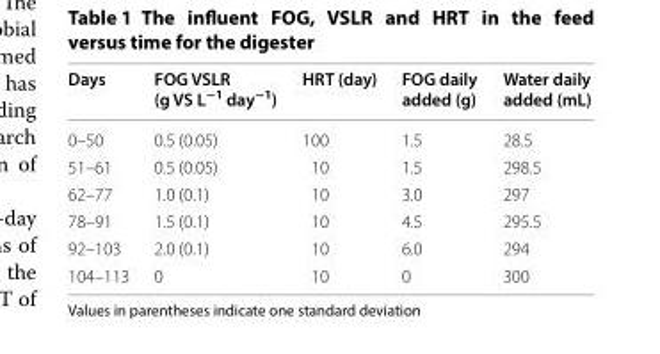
<table><thead><tr><td>Days</td><td>FOG VSLR (g VS L<sup>−1</sup> day<sup>−1</sup>)</td><td>HRT (day)</td><td>FOG daily added (g)</td><td>Water daily added (mL)</td></tr></thead><tbody><tr><td>0–50</td><td>0.5 (0.05)</td><td>100</td><td>1.5</td><td>28.5</td></tr><tr><td>51–61</td><td>0.5 (0.05)</td><td>10</td><td>1.5</td><td>298.5</td></tr><tr><td>62–77</td><td>1.0 (0.1)</td><td>10</td><td>3.0</td><td>297</td></tr><tr><td>78–91</td><td>1.5 (0.1)</td><td>10</td><td>4.5</td><td>295.5</td></tr><tr><td>92–103</td><td>2.0 (0.1)</td><td>10</td><td>6.0</td><td>294</td></tr><tr><td>104–113</td><td>0</td><td>10</td><td>0</td><td>300</td></tr></tbody></table>